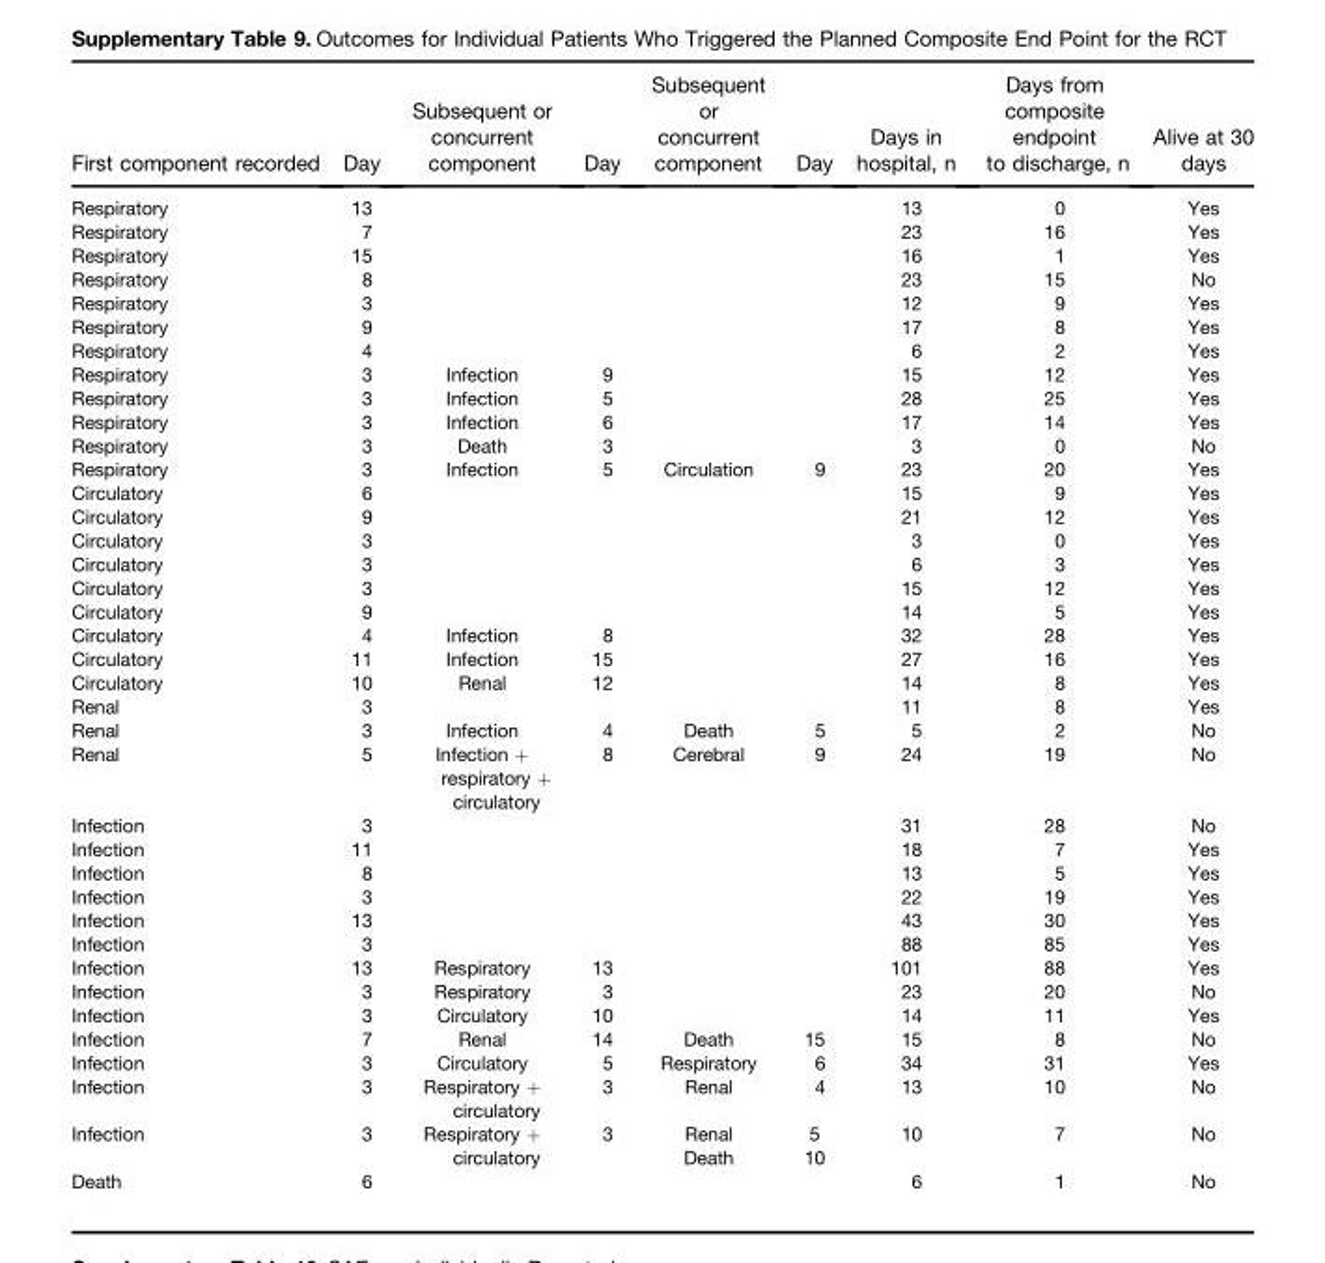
<table><thead><tr><td>First component recorded</td><td>Day</td><td>Subsequent or concurrent component</td><td>Day</td><td>Subsequent or concurrent component</td><td>Day</td><td>Days in hospital, n</td><td>Days from composite endpoint to discharge, n</td><td>Alive at 30 days</td></tr></thead><tbody><tr><td>Respiratory</td><td>13</td><td></td><td></td><td></td><td></td><td>13</td><td>0</td><td>Yes</td></tr><tr><td>Respiratory</td><td>7</td><td></td><td></td><td></td><td></td><td>23</td><td>16</td><td>Yes</td></tr><tr><td>Respiratory</td><td>15</td><td></td><td></td><td></td><td></td><td>16</td><td>1</td><td>Yes</td></tr><tr><td>Respiratory</td><td>8</td><td></td><td></td><td></td><td></td><td>23</td><td>15</td><td>No</td></tr><tr><td>Respiratory</td><td>3</td><td></td><td></td><td></td><td></td><td>12</td><td>9</td><td>Yes</td></tr><tr><td>Respiratory</td><td>9</td><td></td><td></td><td></td><td></td><td>17</td><td>8</td><td>Yes</td></tr><tr><td>Respiratory</td><td>4</td><td></td><td></td><td></td><td></td><td>6</td><td>2</td><td>Yes</td></tr><tr><td>Respiratory</td><td>3</td><td>Infection</td><td>9</td><td></td><td></td><td>15</td><td>12</td><td>Yes</td></tr><tr><td>Respiratory</td><td>3</td><td>Infection</td><td>5</td><td></td><td></td><td>28</td><td>25</td><td>Yes</td></tr><tr><td>Respiratory</td><td>3</td><td>Infection</td><td>6</td><td></td><td></td><td>17</td><td>14</td><td>Yes</td></tr><tr><td>Respiratory</td><td>3</td><td>Death</td><td>3</td><td></td><td></td><td>3</td><td>0</td><td>No</td></tr><tr><td>Respiratory</td><td>3</td><td>Infection</td><td>5</td><td>Circulation</td><td>9</td><td>23</td><td>20</td><td>Yes</td></tr><tr><td>Circulatory</td><td>6</td><td></td><td></td><td></td><td></td><td>15</td><td>9</td><td>Yes</td></tr><tr><td>Circulatory</td><td>9</td><td></td><td></td><td></td><td></td><td>21</td><td>12</td><td>Yes</td></tr><tr><td>Circulatory</td><td>3</td><td></td><td></td><td></td><td></td><td>3</td><td>0</td><td>Yes</td></tr><tr><td>Circulatory</td><td>3</td><td></td><td></td><td></td><td></td><td>6</td><td>3</td><td>Yes</td></tr><tr><td>Circulatory</td><td>3</td><td></td><td></td><td></td><td></td><td>15</td><td>12</td><td>Yes</td></tr><tr><td>Circulatory</td><td>9</td><td></td><td></td><td></td><td></td><td>14</td><td>5</td><td>Yes</td></tr><tr><td>Circulatory</td><td>4</td><td>Infection</td><td>8</td><td></td><td></td><td>32</td><td>28</td><td>Yes</td></tr><tr><td>Circulatory</td><td>11</td><td>Infection</td><td>15</td><td></td><td></td><td>27</td><td>16</td><td>Yes</td></tr><tr><td>Circulatory</td><td>10</td><td>Renal</td><td>12</td><td></td><td></td><td>14</td><td>8</td><td>Yes</td></tr><tr><td>Renal</td><td>3</td><td></td><td></td><td></td><td></td><td>11</td><td>8</td><td>Yes</td></tr><tr><td>Renal</td><td>3</td><td>Infection</td><td>4</td><td>Death</td><td>5</td><td>5</td><td>2</td><td>No</td></tr><tr><td>Renal</td><td>5</td><td>Infection + respiratory + circulatory</td><td>8</td><td>Cerebral</td><td>9</td><td>24</td><td>19</td><td>No</td></tr><tr><td>Infection</td><td>3</td><td></td><td></td><td></td><td></td><td>31</td><td>28</td><td>No</td></tr><tr><td>Infection</td><td>11</td><td></td><td></td><td></td><td></td><td>18</td><td>7</td><td>Yes</td></tr><tr><td>Infection</td><td>8</td><td></td><td></td><td></td><td></td><td>13</td><td>5</td><td>Yes</td></tr><tr><td>Infection</td><td>3</td><td></td><td></td><td></td><td></td><td>22</td><td>19</td><td>Yes</td></tr><tr><td>Infection</td><td>13</td><td></td><td></td><td></td><td></td><td>43</td><td>30</td><td>Yes</td></tr><tr><td>Infection</td><td>3</td><td></td><td></td><td></td><td></td><td>88</td><td>85</td><td>Yes</td></tr><tr><td>Infection</td><td>13</td><td>Respiratory</td><td>13</td><td></td><td></td><td>101</td><td>88</td><td>Yes</td></tr><tr><td>Infection</td><td>3</td><td>Respiratory</td><td>3</td><td></td><td></td><td>23</td><td>20</td><td>No</td></tr><tr><td>Infection</td><td>3</td><td>Circulatory</td><td>10</td><td></td><td></td><td>14</td><td>11</td><td>Yes</td></tr><tr><td>Infection</td><td>7</td><td>Renal</td><td>14</td><td>Death</td><td>15</td><td>15</td><td>8</td><td>No</td></tr><tr><td>Infection</td><td>3</td><td>Circulatory</td><td>5</td><td>Respiratory</td><td>6</td><td>34</td><td>31</td><td>Yes</td></tr><tr><td>Infection</td><td>3</td><td>Respiratory + circulatory</td><td>3</td><td>Renal</td><td>4</td><td>13</td><td>10</td><td>No</td></tr><tr><td>Infection</td><td>3</td><td>Respiratory + circulatory</td><td>3</td><td>Renal Death</td><td>5 10</td><td>10</td><td>7</td><td>No</td></tr><tr><td>Death</td><td>6</td><td></td><td></td><td></td><td></td><td>6</td><td>1</td><td>No</td></tr></tbody></table>